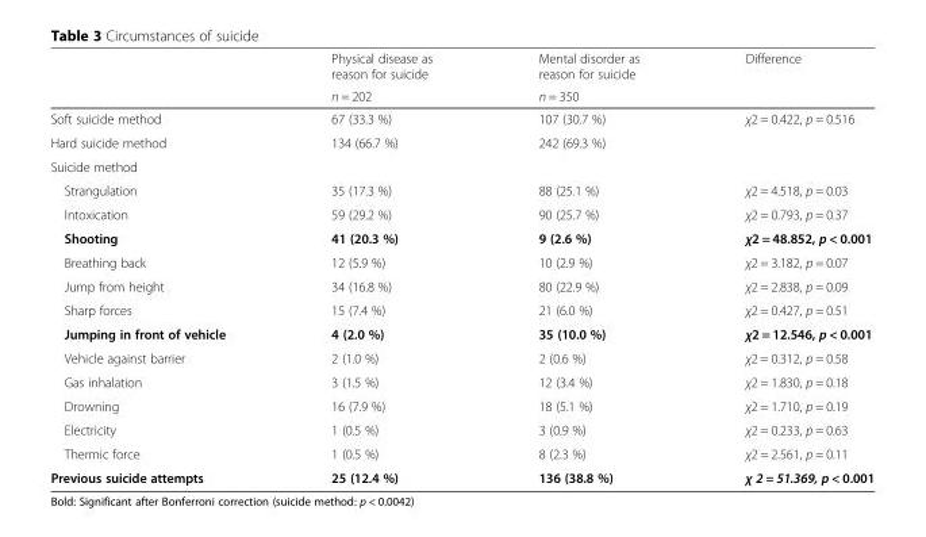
<table><thead><tr><td rowspan="2"></td><td rowspan="2">Physical disease as reason for suicide n = 202</td><td rowspan="2">Mental disorder as reason for suicide n = 350</td><td rowspan="2">Difference</td></tr><tr></tr></thead><tbody><tr><td>Soft suicide method</td><td>67 (33.3 %)</td><td>107 (30.7 %)</td><td rowspan="2">χ2 = 0.422, p = 0.516</td></tr><tr><td>Hard suicide method</td><td>134 (66.7 %)</td><td>242 (69.3 %)</td></tr><tr><td colspan="4">Suicide method</td></tr><tr><td>Strangulation</td><td>35 (17.3 %)</td><td>88 (25.1 %)</td><td>χ2 = 4.518, p = 0.03</td></tr><tr><td>Intoxication</td><td>59 (29.2 %)</td><td>90 (25.7 %)</td><td>χ2 = 0.793, p = 0.37</td></tr><tr><td>Shooting</td><td>41 (20.3 %)</td><td>9 (2.6 %)</td><td>χ2 = 48.852, p &lt; 0.001</td></tr><tr><td>Breathing back</td><td>12 (5.9 %)</td><td>10 (2.9 %)</td><td>χ2 = 3.182, p = 0.07</td></tr><tr><td>Jump from height</td><td>34 (16.8 %)</td><td>80 (22.9 %)</td><td>χ2 = 2.838, p = 0.09</td></tr><tr><td>Sharp forces</td><td>15 (7.4 %)</td><td>21 (6.0 %)</td><td>χ2 = 0.427, p = 0.51</td></tr><tr><td>Jumping in front of vehicle</td><td>4 (2.0 %)</td><td>35 (10.0 %)</td><td>χ2 = 12.546, p &lt; 0.001</td></tr><tr><td>Vehicle against barrier</td><td>2 (1.0 %)</td><td>2 (0.6 %)</td><td>χ2 = 0.312, p = 0.58</td></tr><tr><td>Gas inhalation</td><td>3 (1.5 %)</td><td>12 (3.4 %)</td><td>χ2 = 1.830, p = 0.18</td></tr><tr><td>Drowning</td><td>16 (7.9 %)</td><td>18 (5.1 %)</td><td>χ2 = 1.710, p = 0.19</td></tr><tr><td>Electricity</td><td>1 (0.5 %)</td><td>3 (0.9 %)</td><td>χ2 = 0.233, p = 0.63</td></tr><tr><td>Thermic force</td><td>1 (0.5 %)</td><td>8 (2.3 %)</td><td>χ2 = 2.561, p = 0.11</td></tr><tr><td>Previous suicide attempts</td><td>25 (12.4 %)</td><td>136 (38.8 %)</td><td>χ 2 = 51.369, p &lt; 0.001</td></tr></tbody></table>